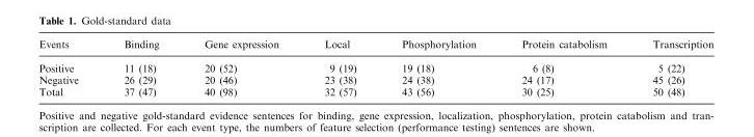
<table><thead><tr><td>Events</td><td>Binding</td><td>Gene expression</td><td>Local</td><td>Phosphorylation</td><td>Protein catabolism</td><td>Transcription</td></tr></thead><tbody><tr><td>Positive</td><td>11 (18)</td><td>20 (52)</td><td>9 (19)</td><td>19 (18)</td><td>6 (8)</td><td>5 (22)</td></tr><tr><td>Negative</td><td>26 (29)</td><td>20 (46)</td><td>23 (38)</td><td>24 (38)</td><td>24 (17)</td><td>45 (26)</td></tr><tr><td>Total</td><td>37 (47)</td><td>40 (98)</td><td>32 (57)</td><td>43 (56)</td><td>30 (25)</td><td>50 (48)</td></tr></tbody></table>